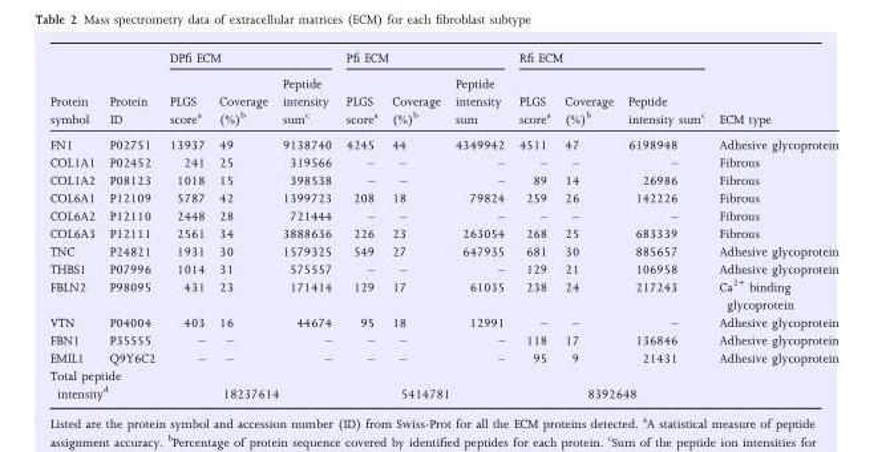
<table><thead><tr><td rowspan="2">Protein symbol</td><td rowspan="2">Protein ID</td><td colspan="3">DPfi ECM</td><td colspan="3">Pfi ECM</td><td colspan="3">Rfi ECM</td><td rowspan="2">ECM type</td></tr><tr><td>PLGS score<sup>a</sup></td><td>Coverage (%)<sup>b</sup></td><td>Peptide intensity sum<sup>c</sup></td><td>PLGS score<sup>a</sup></td><td>Coverage (%)<sup>b</sup></td><td>Peptide intensity sum</td><td>PLGS score<sup>a</sup></td><td>Coverage (%)<sup>b</sup></td><td>Peptide intensity sum<sup>c</sup></td></tr></thead><tbody><tr><td>FN1</td><td>P02751</td><td>13937</td><td>49</td><td>9138740</td><td>4245</td><td>44</td><td>4349942</td><td>4511</td><td>47</td><td>6198948</td><td>Adhesive glycoprotein</td></tr><tr><td>COL1A1</td><td>P02452</td><td>241</td><td>25</td><td>319566</td><td>–</td><td>–</td><td>–</td><td>–</td><td>–</td><td>–</td><td>Fibrous</td></tr><tr><td>COL1A2</td><td>P08123</td><td>1018</td><td>15</td><td>398538</td><td>–</td><td>–</td><td>–</td><td>89</td><td>14</td><td>26986</td><td>Fibrous</td></tr><tr><td>COL6A1</td><td>P12109</td><td>5787</td><td>42</td><td>1399723</td><td>208</td><td>18</td><td>79824</td><td>259</td><td>26</td><td>142226</td><td>Fibrous</td></tr><tr><td>COL6A2</td><td>P12110</td><td>2448</td><td>28</td><td>721444</td><td>–</td><td>–</td><td>–</td><td>–</td><td>–</td><td>–</td><td>Fibrous</td></tr><tr><td>COL6A3</td><td>P12111</td><td>2561</td><td>34</td><td>3888636</td><td>226</td><td>23</td><td>263054</td><td>268</td><td>25</td><td>683339</td><td>Fibrous</td></tr><tr><td>TNC</td><td>P24821</td><td>1931</td><td>30</td><td>1579325</td><td>549</td><td>27</td><td>647935</td><td>681</td><td>30</td><td>885657</td><td>Adhesive glycoprotein</td></tr><tr><td>THBS1</td><td>P07996</td><td>1014</td><td>31</td><td>575557</td><td>–</td><td>–</td><td>–</td><td>129</td><td>21</td><td>106958</td><td>Adhesive glycoprotein</td></tr><tr><td>FBLN2</td><td>P98095</td><td>431</td><td>23</td><td>171414</td><td>129</td><td>17</td><td>61035</td><td>238</td><td>24</td><td>217243</td><td>Ca<sup>2+</sup> binding glycoprotein</td></tr><tr><td>VTN</td><td>P04004</td><td>403</td><td>16</td><td>44674</td><td>95</td><td>18</td><td>12991</td><td>–</td><td>–</td><td>–</td><td>Adhesive glycoprotein</td></tr><tr><td>FBN1</td><td>P35555</td><td>–</td><td>–</td><td>–</td><td>–</td><td>–</td><td>–</td><td>118</td><td>17</td><td>136846</td><td>Adhesive glycoprotein</td></tr><tr><td>EMIL1</td><td>Q9Y6C2</td><td>–</td><td>–</td><td>–</td><td>–</td><td>–</td><td>–</td><td>95</td><td>9</td><td>21431</td><td>Adhesive glycoprotein</td></tr><tr><td colspan="2">Total peptide intensity<sup>d</sup></td><td colspan="3">18237614</td><td colspan="3">5414781</td><td colspan="3">8392648</td><td></td></tr></tbody></table>